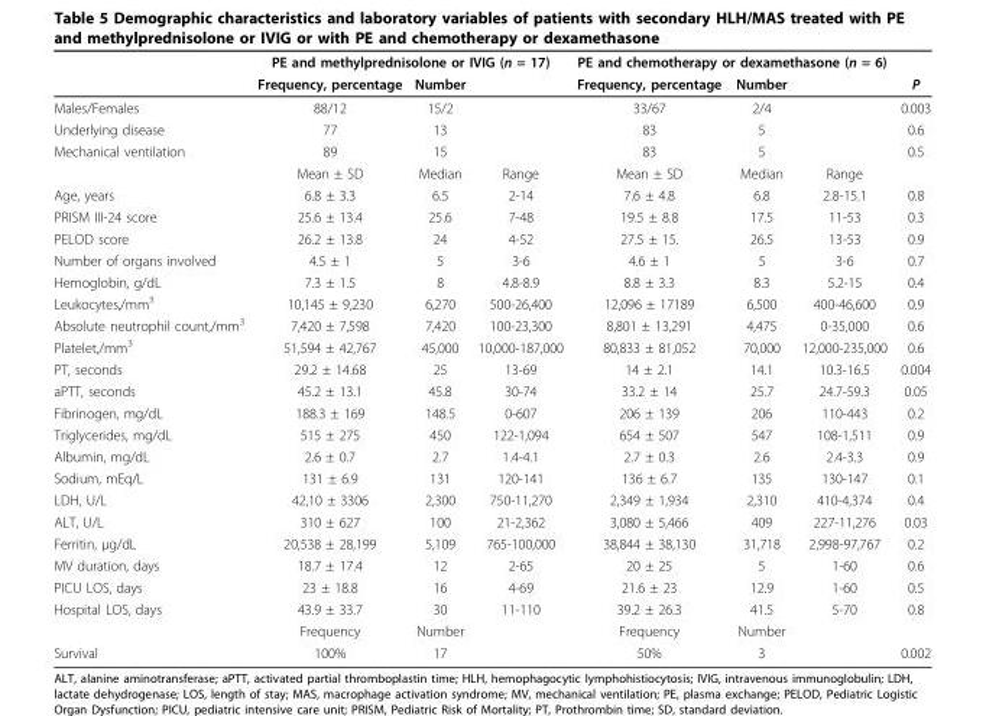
<table><thead><tr><td rowspan="2"></td><td colspan="3">PE and methylprednisolone or IVIG (n = 17)</td><td colspan="3">PE and chemotherapy or dexamethasone (n = 6)</td><td rowspan="2">P</td></tr><tr><td>Frequency, percentage</td><td>Number</td><td></td><td>Frequency, percentage</td><td>Number</td><td></td></tr></thead><tbody><tr><td>Males/Females</td><td>88/12</td><td>15/2</td><td></td><td>33/67</td><td>2/4</td><td></td><td>0.003</td></tr><tr><td>Underlying disease</td><td>77</td><td>13</td><td></td><td>83</td><td>5</td><td></td><td>0.6</td></tr><tr><td rowspan="2">Mechanical ventilation</td><td>89</td><td>15</td><td></td><td>83</td><td>5</td><td></td><td>0.5</td></tr><tr><td>Mean ± SD</td><td>Median</td><td>Range</td><td>Mean ± SD</td><td>Median</td><td>Range</td><td></td></tr><tr><td>Age, years</td><td>6.8 ± 3.3</td><td>6.5</td><td>2-14</td><td>7.6 ± 4.8</td><td>6.8</td><td>2.8-15.1</td><td>0.8</td></tr><tr><td>PRISM III-24 score</td><td>25.6 ± 13.4</td><td>25.6</td><td>7-48</td><td>19.5 ± 8.8</td><td>17.5</td><td>11-53</td><td>0.3</td></tr><tr><td>PELOD score</td><td>26.2 ± 13.8</td><td>24</td><td>4-52</td><td>27.5 ± 15.</td><td>26.5</td><td>13-53</td><td>0.9</td></tr><tr><td>Number of organs involved</td><td>4.5 ± 1</td><td>5</td><td>3-6</td><td>4.6 ± 1</td><td>5</td><td>3-6</td><td>0.7</td></tr><tr><td>Hemoglobin, g/dL</td><td>7.3 ± 1.5</td><td>8</td><td>4.8-8.9</td><td>8.8 ± 3.3</td><td>8.3</td><td>5.2-15</td><td>0.4</td></tr><tr><td>Leukocytes,/mm<sup>3</sup></td><td>10,145 ± 9,230</td><td>6,270</td><td>500-26,400</td><td>12,096 ± 17189</td><td>6,500</td><td>400-46,600</td><td>0.9</td></tr><tr><td>Absolute neutrophil count,/mm<sup>3</sup></td><td>7,420 ± 7,598</td><td>7,420</td><td>100-23,300</td><td>8,801 ± 13,291</td><td>4,475</td><td>0-35,000</td><td>0.6</td></tr><tr><td>Platelet,/mm<sup>3</sup></td><td>51,594 ± 42,767</td><td>45,000</td><td>10,000-187,000</td><td>80,833 ± 81,052</td><td>70,000</td><td>12,000-235,000</td><td>0.6</td></tr><tr><td>PT, seconds</td><td>29.2 ± 14.68</td><td>25</td><td>13-69</td><td>14 ± 2.1</td><td>14.1</td><td>10.3-16.5</td><td>0.004</td></tr><tr><td>aPTT, seconds</td><td>45.2 ± 13.1</td><td>45.8</td><td>30-74</td><td>33.2 ± 14</td><td>25.7</td><td>24.7-59.3</td><td>0.05</td></tr><tr><td>Fibrinogen, mg/dL</td><td>188.3 ± 169</td><td>148.5</td><td>0-607</td><td>206 ± 139</td><td>206</td><td>110-443</td><td>0.2</td></tr><tr><td>Triglycerides, mg/dL</td><td>515 ± 275</td><td>450</td><td>122-1,094</td><td>654 ± 507</td><td>547</td><td>108-1,511</td><td>0.9</td></tr><tr><td>Albumin, mg/dL</td><td>2.6 ± 0.7</td><td>2.7</td><td>1.4-4.1</td><td>2.7 ± 0.3</td><td>2.6</td><td>2.4-3.3</td><td>0.9</td></tr><tr><td>Sodium, mEq/L</td><td>131 ± 6.9</td><td>131</td><td>120-141</td><td>136 ± 6.7</td><td>135</td><td>130-147</td><td>0.1</td></tr><tr><td>LDH, U/L</td><td>42,10 ± 3306</td><td>2,300</td><td>750-11,270</td><td>2,349 ± 1,934</td><td>2,310</td><td>410-4,374</td><td>0.4</td></tr><tr><td>ALT, U/L</td><td>310 ± 627</td><td>100</td><td>21-2,362</td><td>3,080 ± 5,466</td><td>409</td><td>227-11,276</td><td>0.03</td></tr><tr><td>Ferritin, μg/dL</td><td>20,538 ± 28,199</td><td>5,109</td><td>765-100,000</td><td>38,844 ± 38,130</td><td>31,718</td><td>2,998-97,767</td><td>0.2</td></tr><tr><td>MV duration, days</td><td>18.7 ± 17.4</td><td>12</td><td>2-65</td><td>20 ± 25</td><td>5</td><td>1-60</td><td>0.6</td></tr><tr><td>PICU LOS, days</td><td>23 ± 18.8</td><td>16</td><td>4-69</td><td>21.6 ± 23</td><td>12.9</td><td>1-60</td><td>0.5</td></tr><tr><td rowspan="2">Hospital LOS, days</td><td>43.9 ± 33.7</td><td>30</td><td>11-110</td><td>39.2 ± 26.3</td><td>41.5</td><td>5-70</td><td>0.8</td></tr><tr><td>Frequency</td><td>Number</td><td></td><td>Frequency</td><td>Number</td><td></td><td></td></tr><tr><td>Survival</td><td>100%</td><td>17</td><td></td><td>50%</td><td>3</td><td></td><td>0.002</td></tr></tbody></table>